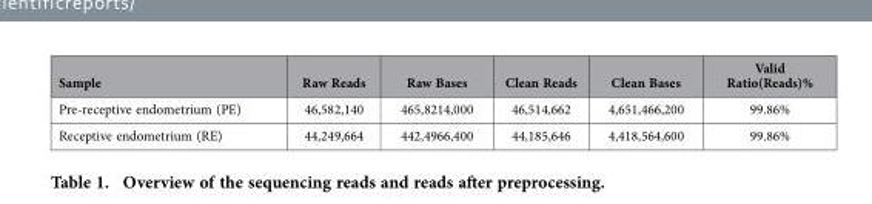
<table><thead><tr><td>Sample</td><td>Raw Reads</td><td>Raw Bases</td><td>Clean Reads</td><td>Clean Bases</td><td>Valid Ratio(Reads)%</td></tr></thead><tbody><tr><td>Pre-receptive endometrium (PE)</td><td>46,582,140</td><td>465,8214,000</td><td>46,514,662</td><td>4,651,466,200</td><td>99.86%</td></tr><tr><td>Receptive endometrium (RE)</td><td>44,249,664</td><td>442,4966,400</td><td>44,185,646</td><td>4,418,564,600</td><td>99.86%</td></tr></tbody></table>